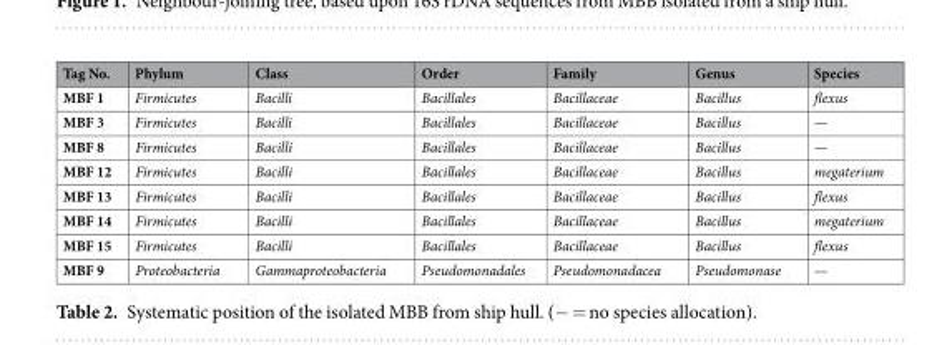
<table><thead><tr><td>Tag No.</td><td>Phylum</td><td>Class</td><td>Order</td><td>Family</td><td>Genus</td><td>Species</td></tr></thead><tbody><tr><td>MBF 1</td><td>Firmicutes</td><td>Bacilli</td><td>Bacillales</td><td>Bacillaceae</td><td>Bacillus</td><td>flexus</td></tr><tr><td>MBF 3</td><td>Firmicutes</td><td>Bacilli</td><td>Bacillales</td><td>Bacillaceae</td><td>Bacillus</td><td>—</td></tr><tr><td>MBF 8</td><td>Firmicutes</td><td>Bacilli</td><td>Bacillales</td><td>Bacillaceae</td><td>Bacillus</td><td>—</td></tr><tr><td>MBF 12</td><td>Firmicutes</td><td>Bacilli</td><td>Bacillales</td><td>Bacillaceae</td><td>Bacillus</td><td>megaterium</td></tr><tr><td>MBF 13</td><td>Firmicutes</td><td>Bacilli</td><td>Bacillales</td><td>Bacillaceae</td><td>Bacillus</td><td>flexus</td></tr><tr><td>MBF 14</td><td>Firmicutes</td><td>Bacilli</td><td>Bacillales</td><td>Bacillaceae</td><td>Bacillus</td><td>megaterium</td></tr><tr><td>MBF 15</td><td>Firmicutes</td><td>Bacilli</td><td>Bacillales</td><td>Bacillaceae</td><td>Bacillus</td><td>flexus</td></tr><tr><td>MBF 9</td><td>Proteobacteria</td><td>Gammaproteobacteria</td><td>Pseudomonadales</td><td>Pseudomonadacea</td><td>Pseudomonase</td><td>—</td></tr></tbody></table>